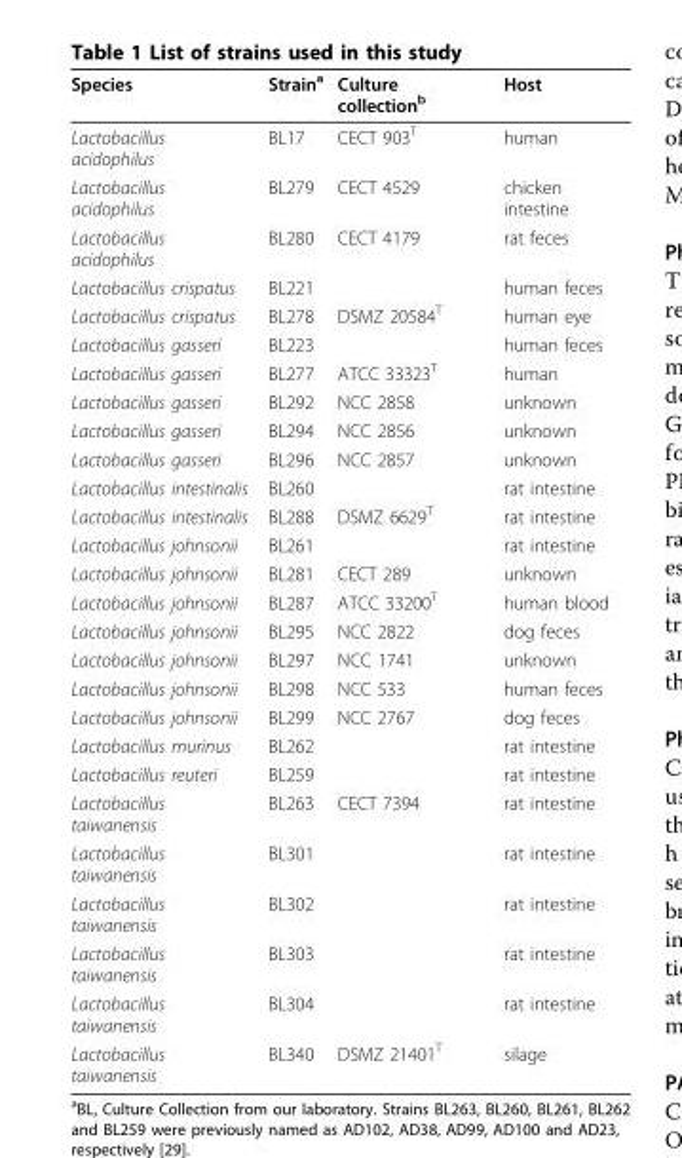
<table><thead><tr><td>Species</td><td>Strain<sup>a</sup></td><td>Culture collection<sup>b</sup></td><td>Host</td></tr></thead><tbody><tr><td>Lactobacillus acidophilus</td><td>BL17</td><td>CECT 903<sup>T</sup></td><td>human</td></tr><tr><td>Lactobacillus acidophilus</td><td>BL279</td><td>CECT 4529</td><td>chicken intestine</td></tr><tr><td>Lactobacillus acidophilus</td><td>BL280</td><td>CECT 4179</td><td>rat feces</td></tr><tr><td>Lactobacillus crispatus</td><td>BL221</td><td></td><td>human feces</td></tr><tr><td>Lactobacillus crispatus</td><td>BL278</td><td>DSMZ 20584<sup>T</sup></td><td>human eye</td></tr><tr><td>Lactobacillus gasseri</td><td>BL223</td><td></td><td>human feces</td></tr><tr><td>Lactobacillus gasseri</td><td>BL277</td><td>ATCC 33323<sup>T</sup></td><td>human</td></tr><tr><td>Lactobacillus gasseri</td><td>BL292</td><td>NCC 2858</td><td>unknown</td></tr><tr><td>Lactobacillus gasseri</td><td>BL294</td><td>NCC 2856</td><td>unknown</td></tr><tr><td>Lactobacillus gasseri</td><td>BL296</td><td>NCC 2857</td><td>unknown</td></tr><tr><td>Lactobacillus intestinalis</td><td>BL260</td><td></td><td>rat intestine</td></tr><tr><td>Lactobacillus intestinalis</td><td>BL288</td><td>DSMZ 6629<sup>T</sup></td><td>rat intestine</td></tr><tr><td>Lactobacillus johnsonii</td><td>BL261</td><td></td><td>rat intestine</td></tr><tr><td>Lactobacillus johnsonii</td><td>BL281</td><td>CECT 289</td><td>unknown</td></tr><tr><td>Lactobacillus johnsonii</td><td>BL287</td><td>ATCC 33200<sup>T</sup></td><td>human blood</td></tr><tr><td>Lactobacillus johnsonii</td><td>BL295</td><td>NCC 2822</td><td>dog feces</td></tr><tr><td>Lactobacillus johnsonii</td><td>BL297</td><td>NCC 1741</td><td>unknown</td></tr><tr><td>Lactobacillus johnsonii</td><td>BL298</td><td>NCC 533</td><td>human feces</td></tr><tr><td>Lactobacillus johnsonii</td><td>BL299</td><td>NCC 2767</td><td>dog feces</td></tr><tr><td>Lactobacillus murinus</td><td>BL262</td><td></td><td>rat intestine</td></tr><tr><td>Lactobacillus reuteri</td><td>BL259</td><td></td><td>rat intestine</td></tr><tr><td>Lactobacillus taiwanensis</td><td>BL263</td><td>CECT 7394</td><td>rat intestine</td></tr><tr><td>Lactobacillus taiwanensis</td><td>BL301</td><td></td><td>rat intestine</td></tr><tr><td>Lactobacillus taiwanensis</td><td>BL302</td><td></td><td>rat intestine</td></tr><tr><td>Lactobacillus taiwanensis</td><td>BL303</td><td></td><td>rat intestine</td></tr><tr><td>Lactobacillus taiwanensis</td><td>BL304</td><td></td><td>rat intestine</td></tr><tr><td>Lactobacillus taiwanensis</td><td>BL340</td><td>DSMZ 21401<sup>T</sup></td><td>silage</td></tr></tbody></table>